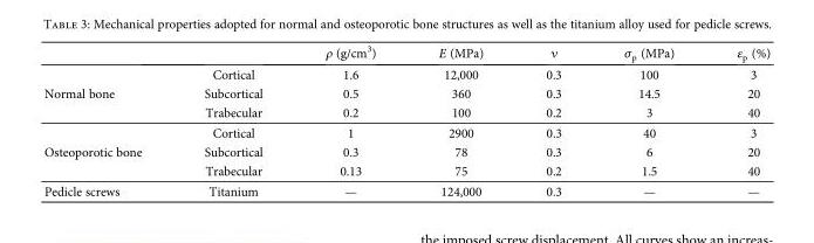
<table><thead><tr><td></td><td></td><td>ρ (g/cm<sup>3</sup>)</td><td>E (MPa)</td><td>ν</td><td>σ<sub>p</sub> (MPa)</td><td>ε<sub>p</sub> (%)</td></tr></thead><tbody><tr><td rowspan="3">Normal bone</td><td>Cortical</td><td>1.6</td><td>12,000</td><td>0.3</td><td>100</td><td>3</td></tr><tr><td>Subcortical</td><td>0.5</td><td>360</td><td>0.3</td><td>14.5</td><td>20</td></tr><tr><td>Trabecular</td><td>0.2</td><td>100</td><td>0.2</td><td>3</td><td>40</td></tr><tr><td rowspan="3">Osteoporotic bone</td><td>Cortical</td><td>1</td><td>2900</td><td>0.3</td><td>40</td><td>3</td></tr><tr><td>Subcortical</td><td>0.3</td><td>78</td><td>0.3</td><td>6</td><td>20</td></tr><tr><td>Trabecular</td><td>0.13</td><td>75</td><td>0.2</td><td>1.5</td><td>40</td></tr><tr><td>Pedicle screws</td><td>Titanium</td><td>—</td><td>124,000</td><td>0.3</td><td>—</td><td>—</td></tr></tbody></table>